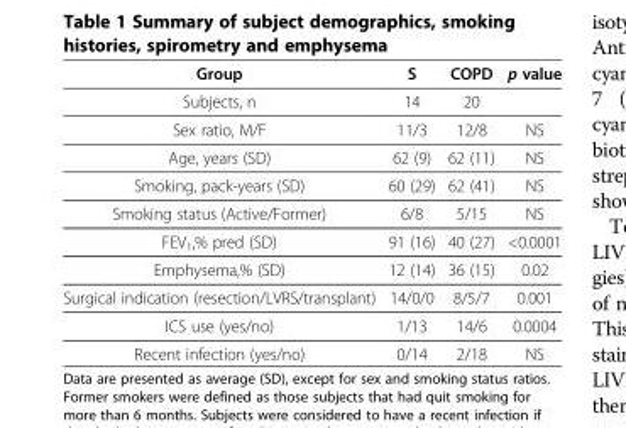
<table><thead><tr><td>Group</td><td>S</td><td>COPD</td><td>p value</td></tr></thead><tbody><tr><td>Subjects, n</td><td>14</td><td>20</td><td></td></tr><tr><td>Sex ratio, M/F</td><td>11/3</td><td>12/8</td><td>NS</td></tr><tr><td>Age, years (SD)</td><td>62 (9)</td><td>62 (11)</td><td>NS</td></tr><tr><td>Smoking, pack-years (SD)</td><td>60 (29)</td><td>62 (41)</td><td>NS</td></tr><tr><td>Smoking status (Active/Former)</td><td>6/8</td><td>5/15</td><td>NS</td></tr><tr><td>FEV<sub>1</sub>,% pred (SD)</td><td>91 (16)</td><td>40 (27)</td><td>&lt;0.0001</td></tr><tr><td>Emphysema,% (SD)</td><td>12 (14)</td><td>36 (15)</td><td>0.02</td></tr><tr><td>Surgical indication (resection/LVRS/transplant)</td><td>14/0/0</td><td>8/5/7</td><td>0.001</td></tr><tr><td>ICS use (yes/no)</td><td>1/13</td><td>14/6</td><td>0.0004</td></tr><tr><td>Recent infection (yes/no)</td><td>0/14</td><td>2/18</td><td>NS</td></tr></tbody></table>